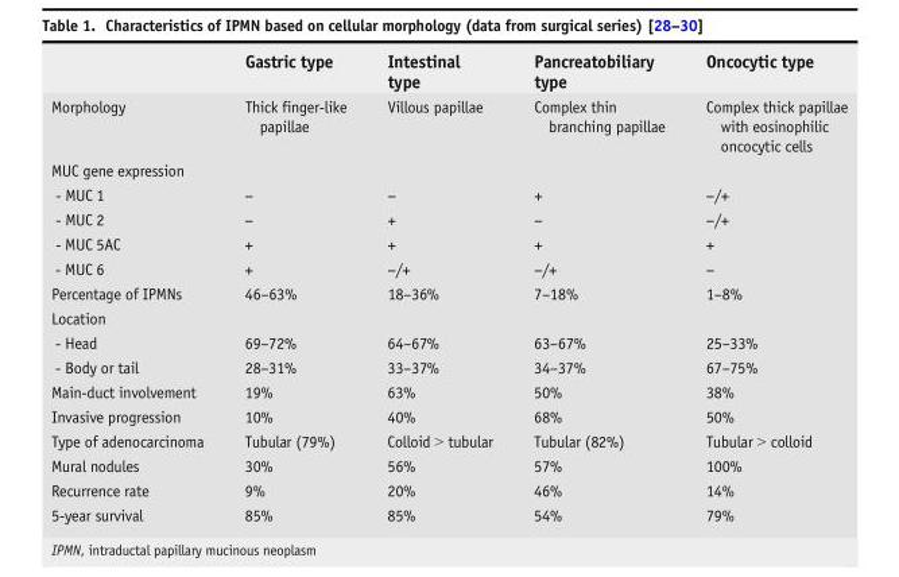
<table><thead><tr><td></td><td>Gastric type</td><td>Intestinal type</td><td>Pancreatobiliary type</td><td>Oncocytic type</td></tr></thead><tbody><tr><td>Morphology</td><td>Thick finger-like papillae</td><td>Villous papillae</td><td>Complex thin branching papillae</td><td>Complex thick papillae with eosinophilic oncocytic cells</td></tr><tr><td colspan="5">MUC gene expression</td></tr><tr><td>- MUC 1</td><td>−</td><td>−</td><td>+</td><td>−/+</td></tr><tr><td>- MUC 2</td><td>−</td><td>+</td><td>−</td><td>−/+</td></tr><tr><td>- MUC 5AC</td><td>+</td><td>+</td><td>+</td><td>+</td></tr><tr><td>- MUC 6</td><td>+</td><td>−/+</td><td>−/+</td><td>−</td></tr><tr><td>Percentage of IPMNs</td><td>46–63%</td><td>18–36%</td><td>7–18%</td><td>1–8%</td></tr><tr><td colspan="5">Location</td></tr><tr><td>- Head</td><td>69–72%</td><td>64–67%</td><td>63–67%</td><td>25–33%</td></tr><tr><td>- Body or tail</td><td>28–31%</td><td>33–37%</td><td>34–37%</td><td>67–75%</td></tr><tr><td>Main-duct involvement</td><td>19%</td><td>63%</td><td>50%</td><td>38%</td></tr><tr><td>Invasive progression</td><td>10%</td><td>40%</td><td>68%</td><td>50%</td></tr><tr><td>Type of adenocarcinoma</td><td>Tubular (79%)</td><td>Colloid &gt; tubular</td><td>Tubular (82%)</td><td>Tubular &gt; colloid</td></tr><tr><td>Mural nodules</td><td>30%</td><td>56%</td><td>57%</td><td>100%</td></tr><tr><td>Recurrence rate</td><td>9%</td><td>20%</td><td>46%</td><td>14%</td></tr><tr><td>5-year survival</td><td>85%</td><td>85%</td><td>54%</td><td>79%</td></tr></tbody></table>